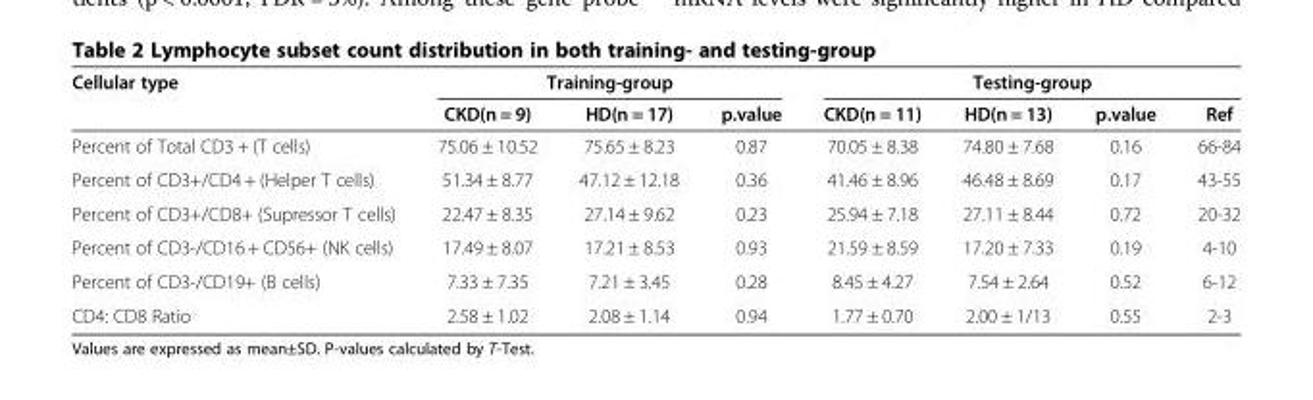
<table><thead><tr><td rowspan="2">Cellular type</td><td colspan="3">Training-group</td><td colspan="4">Testing-group</td></tr><tr><td>CKD(n = 9)</td><td>HD(n = 17)</td><td>p.value</td><td>CKD(n = 11)</td><td>HD(n = 13)</td><td>p.value</td><td>Ref</td></tr></thead><tbody><tr><td>Percent of Total CD3 + (T cells)</td><td>75.06 ± 10.52</td><td>75.65 ± 8.23</td><td>0.87</td><td>70.05 ± 8.38</td><td>74.80 ± 7.68</td><td>0.16</td><td>66-84</td></tr><tr><td>Percent of CD3+/CD4 + (Helper T cells)</td><td>51.34 ± 8.77</td><td>47.12 ± 12.18</td><td>0.36</td><td>41.46 ± 8.96</td><td>46.48 ± 8.69</td><td>0.17</td><td>43-55</td></tr><tr><td>Percent of CD3+/CD8+ (Supressor T cells)</td><td>22.47 ± 8.35</td><td>27.14 ± 9.62</td><td>0.23</td><td>25.94 ± 7.18</td><td>27.11 ± 8.44</td><td>0.72</td><td>20-32</td></tr><tr><td>Percent of CD3-/CD16 + CD56+ (NK cells)</td><td>17.49 ± 8.07</td><td>17.21 ± 8.53</td><td>0.93</td><td>21.59 ± 8.59</td><td>17.20 ± 7.33</td><td>0.19</td><td>4-10</td></tr><tr><td>Percent of CD3-/CD19+ (B cells)</td><td>7.33 ± 7.35</td><td>7.21 ± 3.45</td><td>0.28</td><td>8.45 ± 4.27</td><td>7.54 ± 2.64</td><td>0.52</td><td>6-12</td></tr><tr><td>CD4: CD8 Ratio</td><td>2.58 ± 1.02</td><td>2.08 ± 1.14</td><td>0.94</td><td>1.77 ± 0.70</td><td>2.00 ± 1/13</td><td>0.55</td><td>2-3</td></tr></tbody></table>